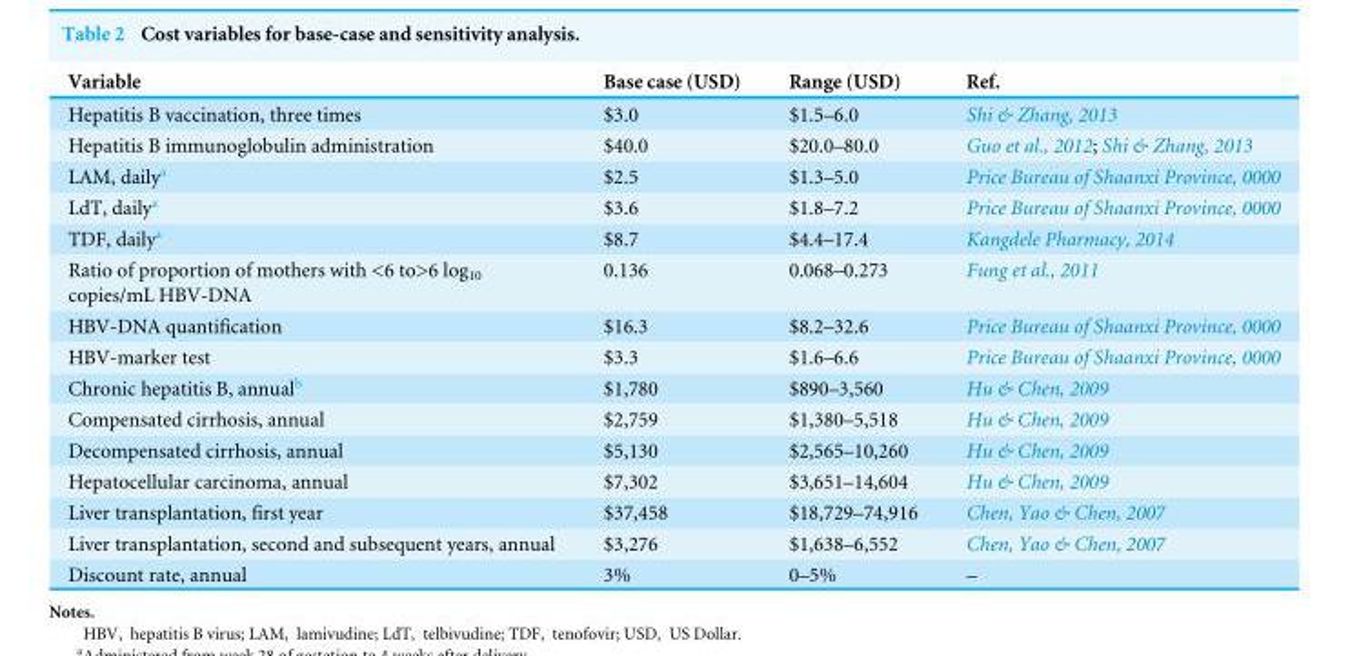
<table><thead><tr><td>Variable</td><td>Base case (USD)</td><td>Range (USD)</td><td>Ref.</td></tr></thead><tbody><tr><td>Hepatitis B vaccination, three times</td><td>$3.0</td><td>$1.5–6.0</td><td>Shi &amp; Zhang, 2013</td></tr><tr><td>Hepatitis B immunoglobulin administration</td><td>$40.0</td><td>$20.0–80.0</td><td>Guo et al., 2012; Shi &amp; Zhang, 2013</td></tr><tr><td>LAM, daily<sup>a</sup></td><td>$2.5</td><td>$1.3–5.0</td><td>Price Bureau of Shaanxi Province, 0000</td></tr><tr><td>LdT, daily<sup>a</sup></td><td>$3.6</td><td>$1.8–7.2</td><td>Price Bureau of Shaanxi Province, 0000</td></tr><tr><td>TDF, daily<sup>a</sup></td><td>$8.7</td><td>$4.4–17.4</td><td>Kangdele Pharmacy, 2014</td></tr><tr><td>Ratio of proportion of mothers with &lt;6 to&gt;6 log<sub>10</sub> copies/mL HBV-DNA</td><td>0.136</td><td>0.068–0.273</td><td>Fung et al., 2011</td></tr><tr><td>HBV-DNA quantification</td><td>$16.3</td><td>$8.2–32.6</td><td>Price Bureau of Shaanxi Province, 0000</td></tr><tr><td>HBV-marker test</td><td>$3.3</td><td>$1.6–6.6</td><td>Price Bureau of Shaanxi Province, 0000</td></tr><tr><td>Chronic hepatitis B, annual<sup>b</sup></td><td>$1,780</td><td>$890–3,560</td><td>Hu &amp; Chen, 2009</td></tr><tr><td>Compensated cirrhosis, annual</td><td>$2,759</td><td>$1,380–5,518</td><td>Hu &amp; Chen, 2009</td></tr><tr><td>Decompensated cirrhosis, annual</td><td>$5,130</td><td>$2,565–10,260</td><td>Hu &amp; Chen, 2009</td></tr><tr><td>Hepatocellular carcinoma, annual</td><td>$7,302</td><td>$3,651–14,604</td><td>Hu &amp; Chen, 2009</td></tr><tr><td>Liver transplantation, first year</td><td>$37,458</td><td>$18,729–74,916</td><td>Chen, Yao &amp; Chen, 2007</td></tr><tr><td>Liver transplantation, second and subsequent years, annual</td><td>$3,276</td><td>$1,638–6,552</td><td>Chen, Yao &amp; Chen, 2007</td></tr><tr><td>Discount rate, annual</td><td>3%</td><td>0–5%</td><td>–</td></tr></tbody></table>